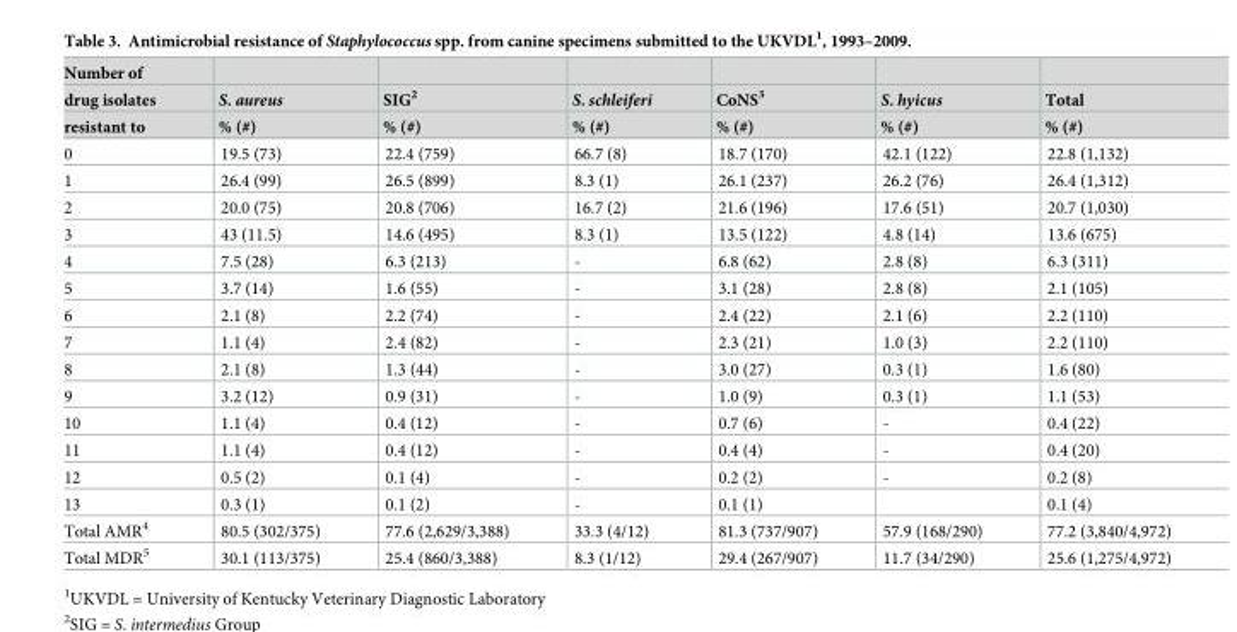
<table><thead><tr><td rowspan="3">Number of drug isolates resistant to</td><td rowspan="3">S. aureus % (#)</td><td rowspan="3">SIG<sup>2</sup> % (#)</td><td rowspan="3">S. schleiferi % (#)</td><td rowspan="3">CoNS<sup>3</sup> % (#)</td><td rowspan="3">S. hyicus % (#)</td><td rowspan="3">Total % (#)</td></tr><tr></tr><tr></tr></thead><tbody><tr><td>0</td><td>19.5 (73)</td><td>22.4 (759)</td><td>66.7 (8)</td><td>18.7 (170)</td><td>42.1 (122)</td><td>22.8 (1,132)</td></tr><tr><td>1</td><td>26.4 (99)</td><td>26.5 (899)</td><td>8.3 (1)</td><td>26.1 (237)</td><td>26.2 (76)</td><td>26.4 (1,312)</td></tr><tr><td>2</td><td>20.0 (75)</td><td>20.8 (706)</td><td>16.7 (2)</td><td>21.6 (196)</td><td>17.6 (51)</td><td>20.7 (1,030)</td></tr><tr><td>3</td><td>43 (11.5)</td><td>14.6 (495)</td><td>8.3 (1)</td><td>13.5 (122)</td><td>4.8 (14)</td><td>13.6 (675)</td></tr><tr><td>4</td><td>7.5 (28)</td><td>6.3 (213)</td><td>-</td><td>6.8 (62)</td><td>2.8 (8)</td><td>6.3 (311)</td></tr><tr><td>5</td><td>3.7 (14)</td><td>1.6 (55)</td><td>-</td><td>3.1 (28)</td><td>2.8 (8)</td><td>2.1 (105)</td></tr><tr><td>6</td><td>2.1 (8)</td><td>2.2 (74)</td><td>-</td><td>2.4 (22)</td><td>2.1 (6)</td><td>2.2 (110)</td></tr><tr><td>7</td><td>1.1 (4)</td><td>2.4 (82)</td><td>-</td><td>2.3 (21)</td><td>1.0 (3)</td><td>2.2 (110)</td></tr><tr><td>8</td><td>2.1 (8)</td><td>1.3 (44)</td><td>-</td><td>3.0 (27)</td><td>0.3 (1)</td><td>1.6 (80)</td></tr><tr><td>9</td><td>3.2 (12)</td><td>0.9 (31)</td><td>-</td><td>1.0 (9)</td><td>0.3 (1)</td><td>1.1 (53)</td></tr><tr><td>10</td><td>1.1 (4)</td><td>0.4 (12)</td><td>-</td><td>0.7 (6)</td><td>-</td><td>0.4 (22)</td></tr><tr><td>11</td><td>1.1 (4)</td><td>0.4 (12)</td><td>-</td><td>0.4 (4)</td><td>-</td><td>0.4 (20)</td></tr><tr><td>12</td><td>0.5 (2)</td><td>0.1 (4)</td><td>-</td><td>0.2 (2)</td><td>-</td><td>0.2 (8)</td></tr><tr><td>13</td><td>0.3 (1)</td><td>0.1 (2)</td><td>-</td><td>0.1 (1)</td><td></td><td>0.1 (4)</td></tr><tr><td>Total AMR<sup>4</sup></td><td>80.5 (302/375)</td><td>77.6 (2,629/3,388)</td><td>33.3 (4/12)</td><td>81.3 (737/907)</td><td>57.9 (168/290)</td><td>77.2 (3,840/4,972)</td></tr><tr><td>Total MDR<sup>5</sup></td><td>30.1 (113/375)</td><td>25.4 (860/3,388)</td><td>8.3 (1/12)</td><td>29.4 (267/907)</td><td>11.7 (34/290)</td><td>25.6 (1,275/4,972)</td></tr></tbody></table>